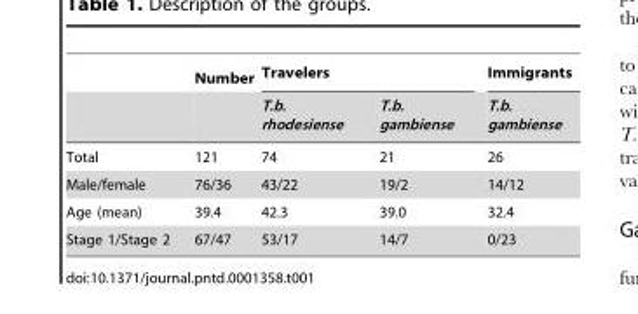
<table><thead><tr><td rowspan="2"></td><td rowspan="2">Number</td><td colspan="2">Travelers</td><td rowspan="2">Immigrants T.b. gambiense</td></tr><tr><td>T.b. rhodesiense</td><td>T.b. gambiense</td></tr></thead><tbody><tr><td>Total</td><td>121</td><td>74</td><td>21</td><td>26</td></tr><tr><td>Male/female</td><td>76/36</td><td>43/22</td><td>19/2</td><td>14/12</td></tr><tr><td>Age (mean)</td><td>39.4</td><td>42.3</td><td>39.0</td><td>32.4</td></tr><tr><td>Stage 1/Stage 2</td><td>67/47</td><td>53/17</td><td>14/7</td><td>0/23</td></tr></tbody></table>